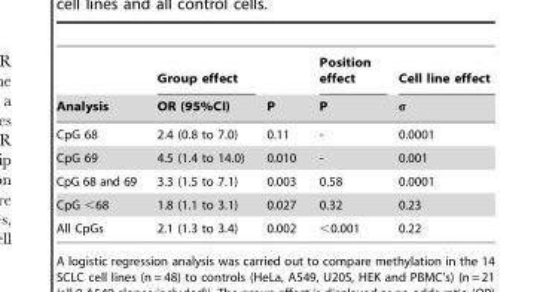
<table><thead><tr><td rowspan="2">Analysis</td><td rowspan="2">Group effect OR (95%CI)</td><td rowspan="2">P</td><td rowspan="2">Position effect P</td><td rowspan="2">Cell line effect σ</td></tr><tr></tr></thead><tbody><tr><td>CpG 68</td><td>2.4 (0.8 to 7.0)</td><td>0.11</td><td>-</td><td>0.0001</td></tr><tr><td>CpG 69</td><td>4.5 (1.4 to 14.0)</td><td>0.010</td><td>-</td><td>0.001</td></tr><tr><td>CpG 68 and 69</td><td>3.3 (1.5 to 7.1)</td><td>0.003</td><td>0.58</td><td>0.0001</td></tr><tr><td>CpG &lt;68</td><td>1.8 (1.1 to 3.1)</td><td>0.027</td><td>0.32</td><td>0.23</td></tr><tr><td>All CpGs</td><td>2.1 (1.3 to 3.4)</td><td>0.002</td><td>&lt;0.001</td><td>0.22</td></tr></tbody></table>